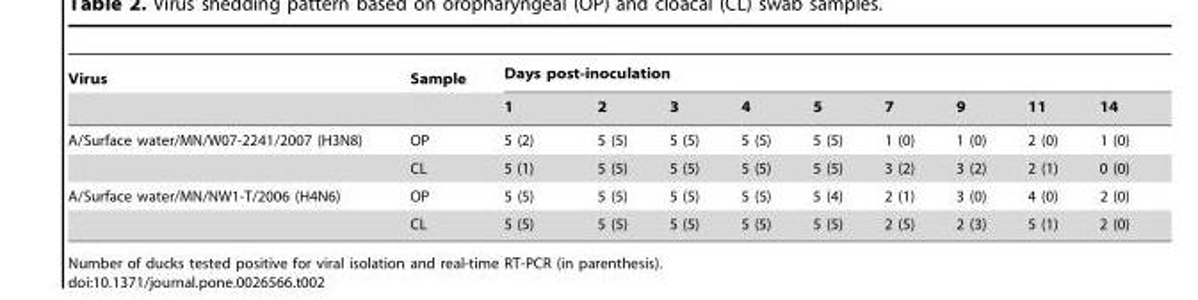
<table><thead><tr><td rowspan="2">Virus</td><td rowspan="2">Sample</td><td colspan="9">Days post-inoculation</td></tr><tr><td>1</td><td>2</td><td>3</td><td>4</td><td>5</td><td>7</td><td>9</td><td>11</td><td>14</td></tr></thead><tbody><tr><td rowspan="2">A/Surface water/MN/W07-2241/2007 (H3N8)</td><td>OP</td><td>5 (2)</td><td>5 (5)</td><td>5 (5)</td><td>5 (5)</td><td>5 (5)</td><td>1 (0)</td><td>1 (0)</td><td>2 (0)</td><td>1 (0)</td></tr><tr><td>CL</td><td>5 (1)</td><td>5 (5)</td><td>5 (5)</td><td>5 (5)</td><td>5 (5)</td><td>3 (2)</td><td>3 (2)</td><td>2 (1)</td><td>0 (0)</td></tr><tr><td rowspan="2">A/Surface water/MN/NW1-T/2006 (H4N6)</td><td>OP</td><td>5 (5)</td><td>5 (5)</td><td>5 (5)</td><td>5 (5)</td><td>5 (4)</td><td>2 (1)</td><td>3 (0)</td><td>4 (0)</td><td>2 (0)</td></tr><tr><td>CL</td><td>5 (5)</td><td>5 (5)</td><td>5 (5)</td><td>5 (5)</td><td>5 (5)</td><td>2 (5)</td><td>2 (3)</td><td>5 (1)</td><td>2 (0)</td></tr></tbody></table>